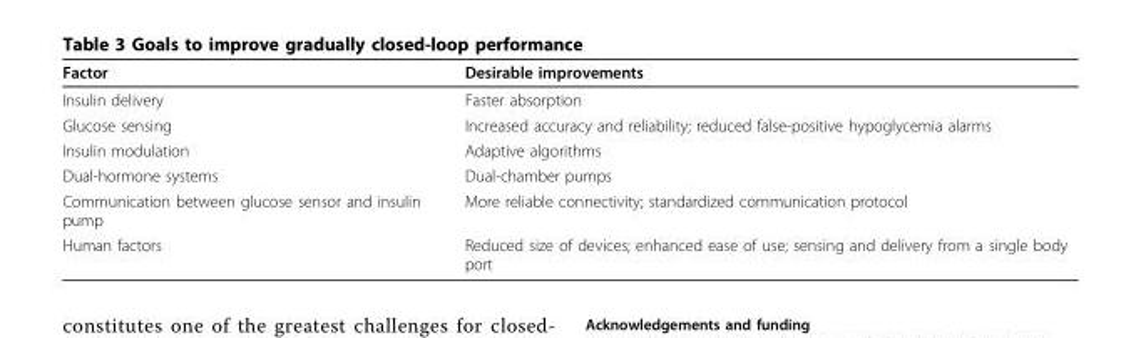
<table><thead><tr><td>Factor</td><td>Desirable improvements</td></tr></thead><tbody><tr><td>Insulin delivery</td><td>Faster absorption</td></tr><tr><td>Glucose sensing</td><td>Increased accuracy and reliability; reduced false-positive hypoglycemia alarms</td></tr><tr><td>Insulin modulation</td><td>Adaptive algorithms</td></tr><tr><td>Dual-hormone systems</td><td>Dual-chamber pumps</td></tr><tr><td>Communication between glucose sensor and insulin pump</td><td>More reliable connectivity; standardized communication protocol</td></tr><tr><td>Human factors</td><td>Reduced size of devices; enhanced ease of use; sensing and delivery from a single body port</td></tr></tbody></table>